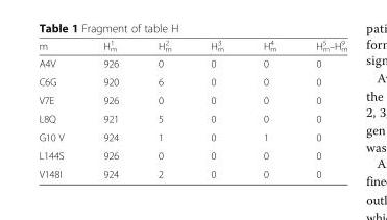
<table><thead><tr><td>m</td><td>H<sub>m</sub> <sup>1</sup></td><td>H<sub>m</sub> <sup>2</sup></td><td>H<sub>m</sub> <sup>3</sup></td><td>H<sub>m</sub> <sup>4</sup></td><td>H<sub>m</sub> <sup>5</sup> –H<sub>m</sub> <sup>9</sup></td></tr></thead><tbody><tr><td>A4V</td><td>926</td><td>0</td><td>0</td><td>0</td><td>0</td></tr><tr><td>C6G</td><td>920</td><td>6</td><td>0</td><td>0</td><td>0</td></tr><tr><td>V7E</td><td>926</td><td>0</td><td>0</td><td>0</td><td>0</td></tr><tr><td>L8Q</td><td>921</td><td>5</td><td>0</td><td>0</td><td>0</td></tr><tr><td>G10 V</td><td>924</td><td>1</td><td>0</td><td>1</td><td>0</td></tr><tr><td>L144S</td><td>926</td><td>0</td><td>0</td><td>0</td><td>0</td></tr><tr><td>V148I</td><td>924</td><td>2</td><td>0</td><td>0</td><td>0</td></tr></tbody></table>